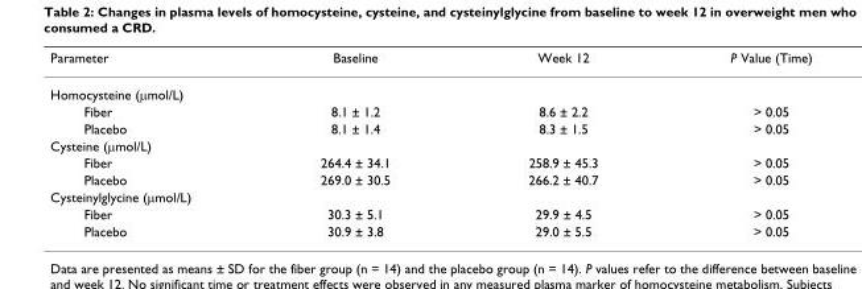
<table><thead><tr><td>Parameter</td><td>Baseline</td><td>Week 12</td><td>P Value (Time)</td></tr></thead><tbody><tr><td colspan="4">Homocysteine (µmol/L)</td></tr><tr><td>Fiber</td><td>8.1 ± 1.2</td><td>8.6 ± 2.2</td><td>&gt; 0.05</td></tr><tr><td>Placebo</td><td>8.1 ± 1.4</td><td>8.3 ± 1.5</td><td>&gt; 0.05</td></tr><tr><td colspan="4">Cysteine (µmol/L)</td></tr><tr><td>Fiber</td><td>264.4 ± 34.1</td><td>258.9 ± 45.3</td><td>&gt; 0.05</td></tr><tr><td>Placebo</td><td>269.0 ± 30.5</td><td>266.2 ± 40.7</td><td>&gt; 0.05</td></tr><tr><td colspan="4">Cysteinylglycine (µmol/L)</td></tr><tr><td>Fiber</td><td>30.3 ± 5.1</td><td>29.9 ± 4.5</td><td>&gt; 0.05</td></tr><tr><td>Placebo</td><td>30.9 ± 3.8</td><td>29.0 ± 5.5</td><td>&gt; 0.05</td></tr></tbody></table>